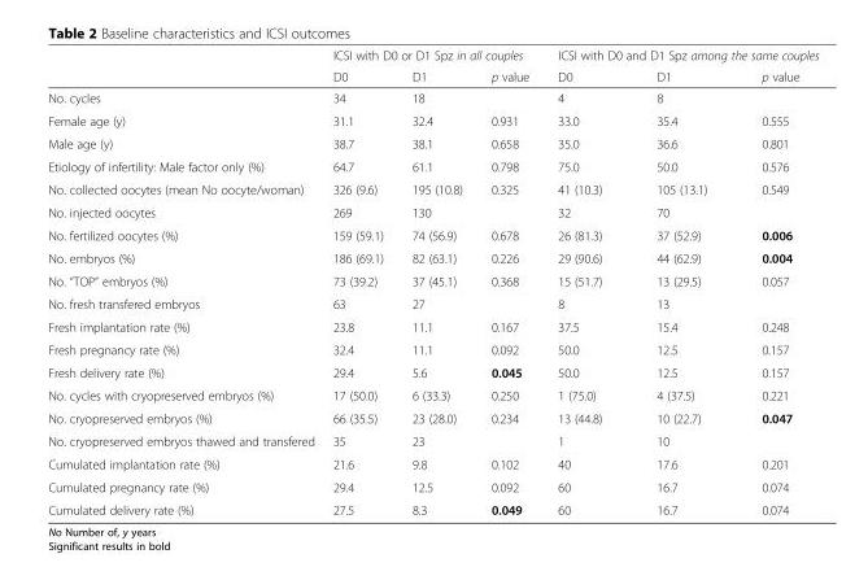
<table><thead><tr><td rowspan="2"></td><td colspan="3">ICSI with D0 or D1 Spz in all couples</td><td colspan="3">ICSI with D0 and D1 Spz among the same couples</td></tr><tr><td>D0</td><td>D1</td><td>p value</td><td>D0</td><td>D1</td><td>p value</td></tr></thead><tbody><tr><td>No. cycles</td><td>34</td><td>18</td><td></td><td>4</td><td>8</td><td></td></tr><tr><td>Female age (y)</td><td>31.1</td><td>32.4</td><td>0.931</td><td>33.0</td><td>35.4</td><td>0.555</td></tr><tr><td>Male age (y)</td><td>38.7</td><td>38.1</td><td>0.658</td><td>35.0</td><td>36.6</td><td>0.801</td></tr><tr><td>Etiology of infertility: Male factor only (%)</td><td>64.7</td><td>61.1</td><td>0.798</td><td>75.0</td><td>50.0</td><td>0.576</td></tr><tr><td>No. collected oocytes (mean No oocyte/woman)</td><td>326 (9.6)</td><td>195 (10.8)</td><td>0.325</td><td>41 (10.3)</td><td>105 (13.1)</td><td>0.549</td></tr><tr><td>No. injected oocytes</td><td>269</td><td>130</td><td></td><td>32</td><td>70</td><td></td></tr><tr><td>No. fertilized oocytes (%)</td><td>159 (59.1)</td><td>74 (56.9)</td><td>0.678</td><td>26 (81.3)</td><td>37 (52.9)</td><td>0.006</td></tr><tr><td>No. embryos (%)</td><td>186 (69.1)</td><td>82 (63.1)</td><td>0.226</td><td>29 (90.6)</td><td>44 (62.9)</td><td>0.004</td></tr><tr><td>No. “TOP” embryos (%)</td><td>73 (39.2)</td><td>37 (45.1)</td><td>0.368</td><td>15 (51.7)</td><td>13 (29.5)</td><td>0.057</td></tr><tr><td>No. fresh transfered embryos</td><td>63</td><td>27</td><td></td><td>8</td><td>13</td><td></td></tr><tr><td>Fresh implantation rate (%)</td><td>23.8</td><td>11.1</td><td>0.167</td><td>37.5</td><td>15.4</td><td>0.248</td></tr><tr><td>Fresh pregnancy rate (%)</td><td>32.4</td><td>11.1</td><td>0.092</td><td>50.0</td><td>12.5</td><td>0.157</td></tr><tr><td>Fresh delivery rate (%)</td><td>29.4</td><td>5.6</td><td>0.045</td><td>50.0</td><td>12.5</td><td>0.157</td></tr><tr><td>No. cycles with cryopreserved embryos (%)</td><td>17 (50.0)</td><td>6 (33.3)</td><td>0.250</td><td>1 (75.0)</td><td>4 (37.5)</td><td>0.221</td></tr><tr><td>No. cryopreserved embryos (%)</td><td>66 (35.5)</td><td>23 (28.0)</td><td>0.234</td><td>13 (44.8)</td><td>10 (22.7)</td><td>0.047</td></tr><tr><td>No. cryopreserved embryos thawed and transfered</td><td>35</td><td>23</td><td></td><td>1</td><td>10</td><td></td></tr><tr><td>Cumulated implantation rate (%)</td><td>21.6</td><td>9.8</td><td>0.102</td><td>40</td><td>17.6</td><td>0.201</td></tr><tr><td>Cumulated pregnancy rate (%)</td><td>29.4</td><td>12.5</td><td>0.092</td><td>60</td><td>16.7</td><td>0.074</td></tr><tr><td>Cumulated delivery rate (%)</td><td>27.5</td><td>8.3</td><td>0.049</td><td>60</td><td>16.7</td><td>0.074</td></tr></tbody></table>